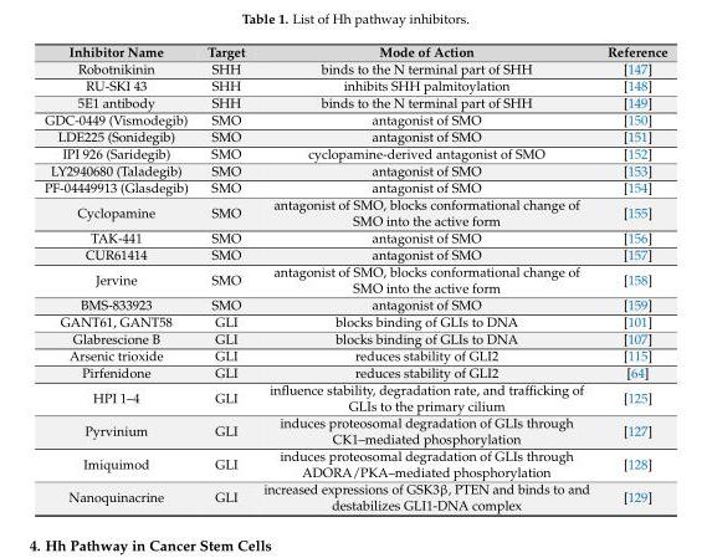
<table><thead><tr><td>Inhibitor Name</td><td>Target</td><td>Mode of Action</td><td>Reference</td></tr></thead><tbody><tr><td>Robotnikinin</td><td>SHH</td><td>binds to the N terminal part of SHH</td><td>[147]</td></tr><tr><td>RU-SKI 43</td><td>SHH</td><td>inhibits SHH palmitoylation</td><td>[148]</td></tr><tr><td>5E1 antibody</td><td>SHH</td><td>binds to the N terminal part of SHH</td><td>[149]</td></tr><tr><td>GDC-0449 (Vismodegib)</td><td>SMO</td><td>antagonist of SMO</td><td>[150]</td></tr><tr><td>LDE225 (Sonidegib)</td><td>SMO</td><td>antagonist of SMO</td><td>[151]</td></tr><tr><td>IPI 926 (Saridegib)</td><td>SMO</td><td>cyclopamine-derived antagonist of SMO</td><td>[152]</td></tr><tr><td>LY2940680 (Taladegib)</td><td>SMO</td><td>antagonist of SMO</td><td>[153]</td></tr><tr><td>PF-04449913 (Glasdegib)</td><td>SMO</td><td>antagonist of SMO</td><td>[154]</td></tr><tr><td>Cyclopamine</td><td>SMO</td><td>antagonist of SMO, blocks conformational change of SMO into the active form</td><td>[155]</td></tr><tr><td>TAK-441</td><td>SMO</td><td>antagonist of SMO</td><td>[156]</td></tr><tr><td>CUR61414</td><td>SMO</td><td>antagonist of SMO</td><td>[157]</td></tr><tr><td>Jervine</td><td>SMO</td><td>antagonist of SMO, blocks conformational change of SMO into the active form</td><td>[158]</td></tr><tr><td>BMS-833923</td><td>SMO</td><td>antagonist of SMO</td><td>[159]</td></tr><tr><td>GANT61, GANT58</td><td>GLI</td><td>blocks binding of GLIs to DNA</td><td>[101]</td></tr><tr><td>Glabrescione B</td><td>GLI</td><td>blocks binding of GLIs to DNA</td><td>[107]</td></tr><tr><td>Arsenic trioxide</td><td>GLI</td><td>reduces stability of GLI2</td><td>[115]</td></tr><tr><td>Pirfenidone</td><td>GLI</td><td>reduces stability of GLI2</td><td>[64]</td></tr><tr><td>HPI 1–4</td><td>GLI</td><td>influence stability, degradation rate, and trafficking of GLIs to the primary cilium</td><td>[125]</td></tr><tr><td>Pyrvinium</td><td>GLI</td><td>induces proteosomal degradation of GLIs through CK1–mediated phosphorylation</td><td>[127]</td></tr><tr><td>Imiquimod</td><td>GLI</td><td>induces proteosomal degradation of GLIs through ADORA/PKA–mediated phosphorylation</td><td>[128]</td></tr><tr><td>Nanoquinacrine</td><td>GLI</td><td>increased expressions of GSK3β, PTEN and binds to and destabilizes GLI1-DNA complex</td><td>[129]</td></tr></tbody></table>